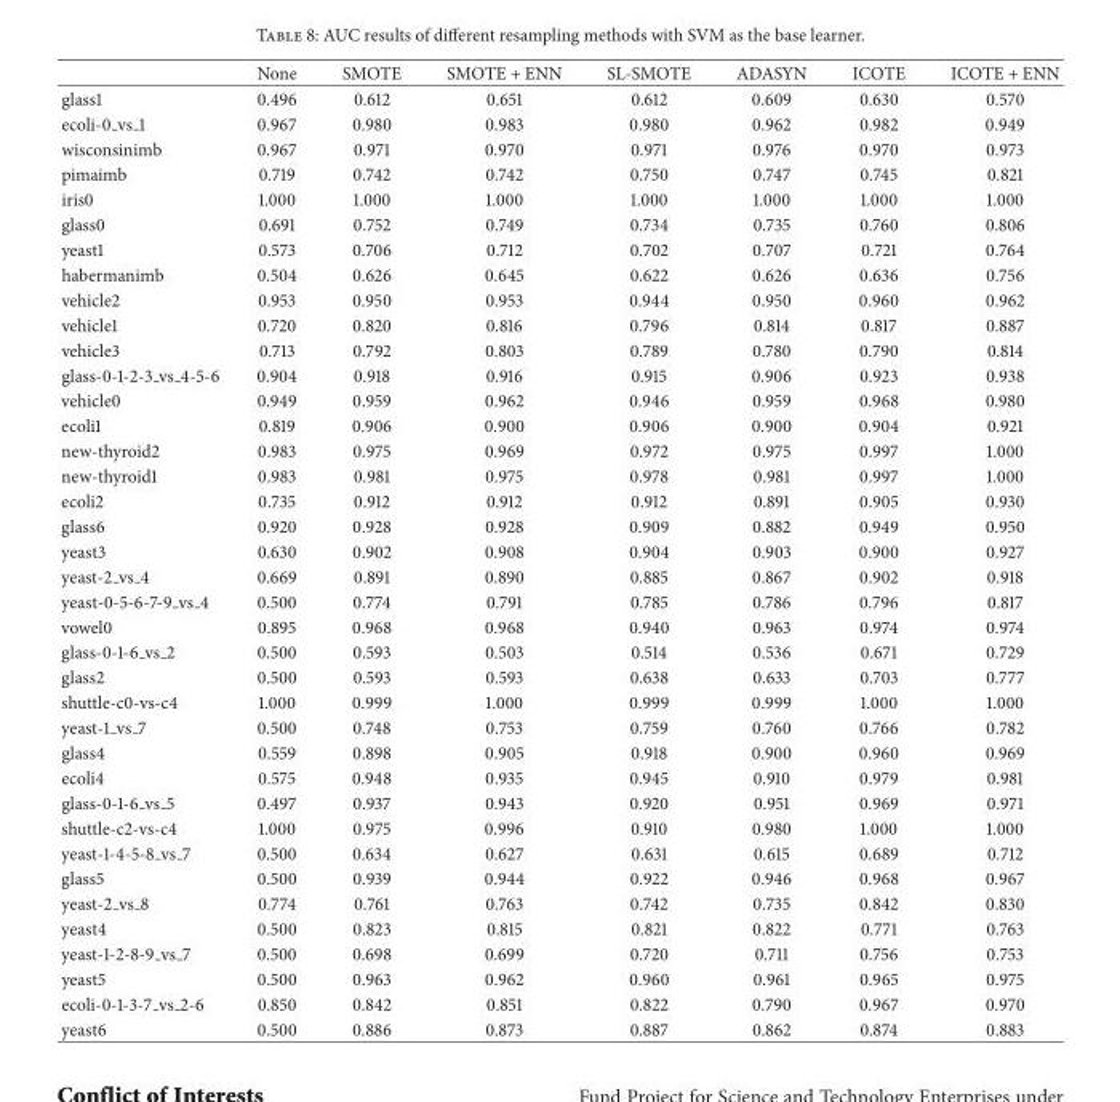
<table><thead><tr><td></td><td>None</td><td>SMOTE</td><td>SMOTE + ENN</td><td>SL-SMOTE</td><td>ADASYN</td><td>ICOTE</td><td>ICOTE + ENN</td></tr></thead><tbody><tr><td>glass1</td><td>0.496</td><td>0.612</td><td>0.651</td><td>0.612</td><td>0.609</td><td>0.630</td><td>0.570</td></tr><tr><td>ecoli-0 <sub>vs</sub> 1</td><td>0.967</td><td>0.980</td><td>0.983</td><td>0.980</td><td>0.962</td><td>0.982</td><td>0.949</td></tr><tr><td>wisconsinimb</td><td>0.967</td><td>0.971</td><td>0.970</td><td>0.971</td><td>0.976</td><td>0.970</td><td>0.973</td></tr><tr><td>pimaimb</td><td>0.719</td><td>0.742</td><td>0.742</td><td>0.750</td><td>0.747</td><td>0.745</td><td>0.821</td></tr><tr><td>iris0</td><td>1.000</td><td>1.000</td><td>1.000</td><td>1.000</td><td>1.000</td><td>1.000</td><td>1.000</td></tr><tr><td>glass0</td><td>0.691</td><td>0.752</td><td>0.749</td><td>0.734</td><td>0.735</td><td>0.760</td><td>0.806</td></tr><tr><td>yeast1</td><td>0.573</td><td>0.706</td><td>0.712</td><td>0.702</td><td>0.707</td><td>0.721</td><td>0.764</td></tr><tr><td>habermanimb</td><td>0.504</td><td>0.626</td><td>0.645</td><td>0.622</td><td>0.626</td><td>0.636</td><td>0.756</td></tr><tr><td>vehicle2</td><td>0.953</td><td>0.950</td><td>0.953</td><td>0.944</td><td>0.950</td><td>0.960</td><td>0.962</td></tr><tr><td>vehicle1</td><td>0.720</td><td>0.820</td><td>0.816</td><td>0.796</td><td>0.814</td><td>0.817</td><td>0.887</td></tr><tr><td>vehicle3</td><td>0.713</td><td>0.792</td><td>0.803</td><td>0.789</td><td>0.780</td><td>0.790</td><td>0.814</td></tr><tr><td>glass-0-1-2-3 <sub>vs</sub> 4-5-6</td><td>0.904</td><td>0.918</td><td>0.916</td><td>0.915</td><td>0.906</td><td>0.923</td><td>0.938</td></tr><tr><td>vehicle0</td><td>0.949</td><td>0.959</td><td>0.962</td><td>0.946</td><td>0.959</td><td>0.968</td><td>0.980</td></tr><tr><td>ecoli1</td><td>0.819</td><td>0.906</td><td>0.900</td><td>0.906</td><td>0.900</td><td>0.904</td><td>0.921</td></tr><tr><td>new-thyroid2</td><td>0.983</td><td>0.975</td><td>0.969</td><td>0.972</td><td>0.975</td><td>0.997</td><td>1.000</td></tr><tr><td>new-thyroid1</td><td>0.983</td><td>0.981</td><td>0.975</td><td>0.978</td><td>0.981</td><td>0.997</td><td>1.000</td></tr><tr><td>ecoli2</td><td>0.735</td><td>0.912</td><td>0.912</td><td>0.912</td><td>0.891</td><td>0.905</td><td>0.930</td></tr><tr><td>glass6</td><td>0.920</td><td>0.928</td><td>0.928</td><td>0.909</td><td>0.882</td><td>0.949</td><td>0.950</td></tr><tr><td>yeast3</td><td>0.630</td><td>0.902</td><td>0.908</td><td>0.904</td><td>0.903</td><td>0.900</td><td>0.927</td></tr><tr><td>yeast-2 <sub>vs</sub> 4</td><td>0.669</td><td>0.891</td><td>0.890</td><td>0.885</td><td>0.867</td><td>0.902</td><td>0.918</td></tr><tr><td>yeast-0-5-6-7-9 <sub>vs</sub> 4</td><td>0.500</td><td>0.774</td><td>0.791</td><td>0.785</td><td>0.786</td><td>0.796</td><td>0.817</td></tr><tr><td>vowel0</td><td>0.895</td><td>0.968</td><td>0.968</td><td>0.940</td><td>0.963</td><td>0.974</td><td>0.974</td></tr><tr><td>glass-0-1-6 <sub>vs</sub> 2</td><td>0.500</td><td>0.593</td><td>0.503</td><td>0.514</td><td>0.536</td><td>0.671</td><td>0.729</td></tr><tr><td>glass2</td><td>0.500</td><td>0.593</td><td>0.593</td><td>0.638</td><td>0.633</td><td>0.703</td><td>0.777</td></tr><tr><td>shuttle-c0-vs-c4</td><td>1.000</td><td>0.999</td><td>1.000</td><td>0.999</td><td>0.999</td><td>1.000</td><td>1.000</td></tr><tr><td>yeast-1 <sub>vs</sub> 7</td><td>0.500</td><td>0.748</td><td>0.753</td><td>0.759</td><td>0.760</td><td>0.766</td><td>0.782</td></tr><tr><td>glass4</td><td>0.559</td><td>0.898</td><td>0.905</td><td>0.918</td><td>0.900</td><td>0.960</td><td>0.969</td></tr><tr><td>ecoli4</td><td>0.575</td><td>0.948</td><td>0.935</td><td>0.945</td><td>0.910</td><td>0.979</td><td>0.981</td></tr><tr><td>glass-0-1-6 <sub>vs</sub> 5</td><td>0.497</td><td>0.937</td><td>0.943</td><td>0.920</td><td>0.951</td><td>0.969</td><td>0.971</td></tr><tr><td>shuttle-c2-vs-c4</td><td>1.000</td><td>0.975</td><td>0.996</td><td>0.910</td><td>0.980</td><td>1.000</td><td>1.000</td></tr><tr><td>yeast-1-4-5-8 <sub>vs</sub> 7</td><td>0.500</td><td>0.634</td><td>0.627</td><td>0.631</td><td>0.615</td><td>0.689</td><td>0.712</td></tr><tr><td>glass5</td><td>0.500</td><td>0.939</td><td>0.944</td><td>0.922</td><td>0.946</td><td>0.968</td><td>0.967</td></tr><tr><td>yeast-2 <sub>vs</sub> 8</td><td>0.774</td><td>0.761</td><td>0.763</td><td>0.742</td><td>0.735</td><td>0.842</td><td>0.830</td></tr><tr><td>yeast4</td><td>0.500</td><td>0.823</td><td>0.815</td><td>0.821</td><td>0.822</td><td>0.771</td><td>0.763</td></tr><tr><td>yeast-1-2-8-9 <sub>vs</sub> 7</td><td>0.500</td><td>0.698</td><td>0.699</td><td>0.720</td><td>0.711</td><td>0.756</td><td>0.753</td></tr><tr><td>yeast5</td><td>0.500</td><td>0.963</td><td>0.962</td><td>0.960</td><td>0.961</td><td>0.965</td><td>0.975</td></tr><tr><td>ecoli-0-1-3-7 <sub>vs</sub> 2-6</td><td>0.850</td><td>0.842</td><td>0.851</td><td>0.822</td><td>0.790</td><td>0.967</td><td>0.970</td></tr><tr><td>yeast6</td><td>0.500</td><td>0.886</td><td>0.873</td><td>0.887</td><td>0.862</td><td>0.874</td><td>0.883</td></tr></tbody></table>